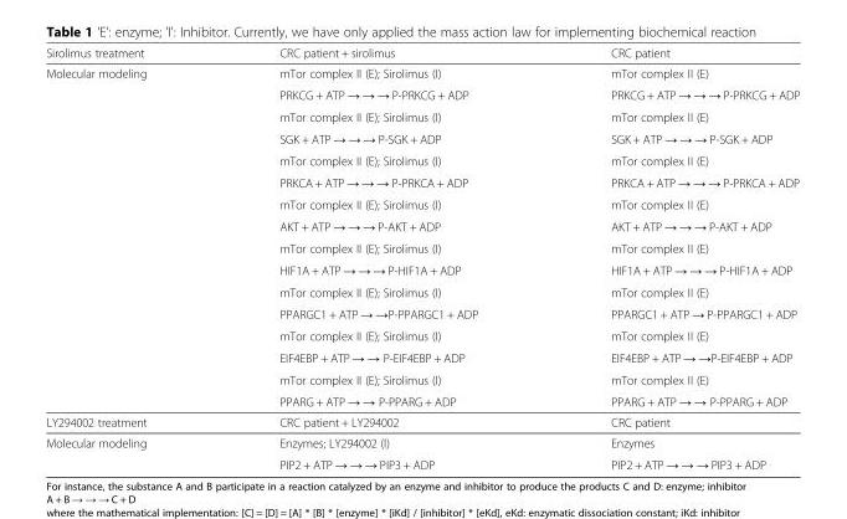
<table><thead><tr><td>Sirolimus treatment</td><td>CRC patient + sirolimus</td><td>CRC patient</td></tr></thead><tbody><tr><td rowspan="16">Molecular modeling</td><td>mTor complex II (E); Sirolimus (I)</td><td>mTor complex II (E)</td></tr><tr><td>PRKCG + ATP → → → P-PRKCG + ADP</td><td>PRKCG + ATP → → → P-PRKCG + ADP</td></tr><tr><td>mTor complex II (E); Sirolimus (I)</td><td>mTor complex II (E)</td></tr><tr><td>SGK + ATP → → → P-SGK + ADP</td><td>SGK + ATP → → → P-SGK + ADP</td></tr><tr><td>mTor complex II (E); Sirolimus (I)</td><td>mTor complex II (E)</td></tr><tr><td>PRKCA + ATP → → → P-PRKCA + ADP</td><td>PRKCA + ATP → → → P-PRKCA + ADP</td></tr><tr><td>mTor complex II (E); Sirolimus (I)</td><td>mTor complex II (E)</td></tr><tr><td>AKT + ATP → → → P-AKT + ADP</td><td>AKT + ATP → → → P-AKT + ADP</td></tr><tr><td>mTor complex II (E); Sirolimus (I)</td><td>mTor complex II (E)</td></tr><tr><td>HIF1A + ATP → → → P-HIF1A + ADP</td><td>HIF1A + ATP → → → P-HIF1A + ADP</td></tr><tr><td>mTor complex II (E); Sirolimus (I)</td><td>mTor complex II (E)</td></tr><tr><td>PPARGC1 + ATP → →P-PPARGC1 + ADP</td><td>PPARGC1 + ATP → P-PPARGC1 + ADP</td></tr><tr><td>mTor complex II (E); Sirolimus (I)</td><td>mTor complex II (E)</td></tr><tr><td>EIF4EBP + ATP → → P-EIF4EBP + ADP</td><td>EIF4EBP + ATP → →P-EIF4EBP + ADP</td></tr><tr><td>mTor complex II (E); Sirolimus (I)</td><td>mTor complex II (E)</td></tr><tr><td>PPARG + ATP → → P-PPARG + ADP</td><td>PPARG + ATP → → P-PPARG + ADP</td></tr><tr><td>LY294002 treatment</td><td>CRC patient + LY294002</td><td>CRC patient</td></tr><tr><td rowspan="2">Molecular modeling</td><td>Enzymes; LY294002 (I)</td><td>Enzymes</td></tr><tr><td>PIP2 + ATP → → → PIP3 + ADP</td><td>PIP2 + ATP → → → PIP3 + ADP</td></tr></tbody></table>